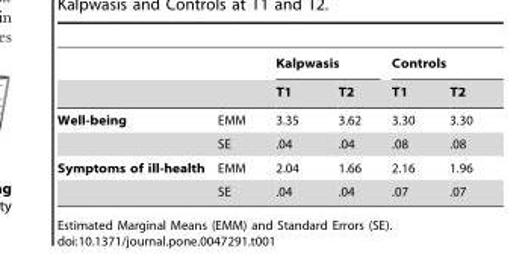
<table><thead><tr><td rowspan="2"></td><td rowspan="2"></td><td colspan="2">Kalpwasis</td><td colspan="2">Controls</td></tr><tr><td>T1</td><td>T2</td><td>T1</td><td>T2</td></tr></thead><tbody><tr><td rowspan="2">Well-being</td><td>EMM</td><td>3.35</td><td>3.62</td><td>3.30</td><td>3.30</td></tr><tr><td>SE</td><td>.04</td><td>.04</td><td>.08</td><td>.08</td></tr><tr><td rowspan="2">Symptoms of ill-health</td><td>EMM</td><td>2.04</td><td>1.66</td><td>2.16</td><td>1.96</td></tr><tr><td>SE</td><td>.04</td><td>.04</td><td>.07</td><td>.07</td></tr></tbody></table>